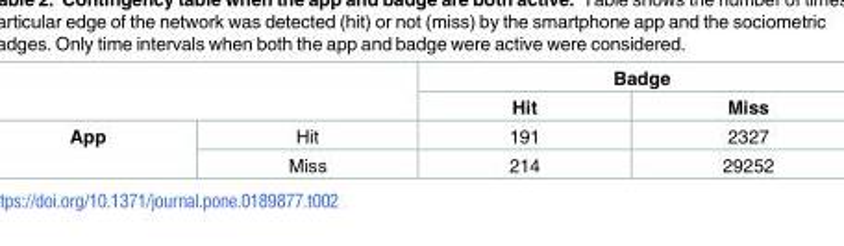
<table><thead><tr><td rowspan="2"></td><td rowspan="2"></td><td colspan="2">Badge</td></tr><tr><td>Hit</td><td>Miss</td></tr></thead><tbody><tr><td rowspan="2">App</td><td>Hit</td><td>191</td><td>2327</td></tr><tr><td>Miss</td><td>214</td><td>29252</td></tr></tbody></table>